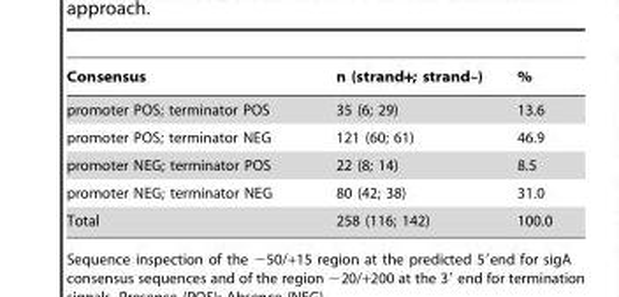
<table><thead><tr><td>Consensus</td><td>n (strand+; strand–)</td><td>%</td></tr></thead><tbody><tr><td>promoter POS; terminator POS</td><td>35 (6; 29)</td><td>13.6</td></tr><tr><td>promoter POS; terminator NEG</td><td>121 (60; 61)</td><td>46.9</td></tr><tr><td>promoter NEG; terminator POS</td><td>22 (8; 14)</td><td>8.5</td></tr><tr><td>promoter NEG; terminator NEG</td><td>80 (42; 38)</td><td>31.0</td></tr><tr><td>Total</td><td>258 (116; 142)</td><td>100.0</td></tr></tbody></table>